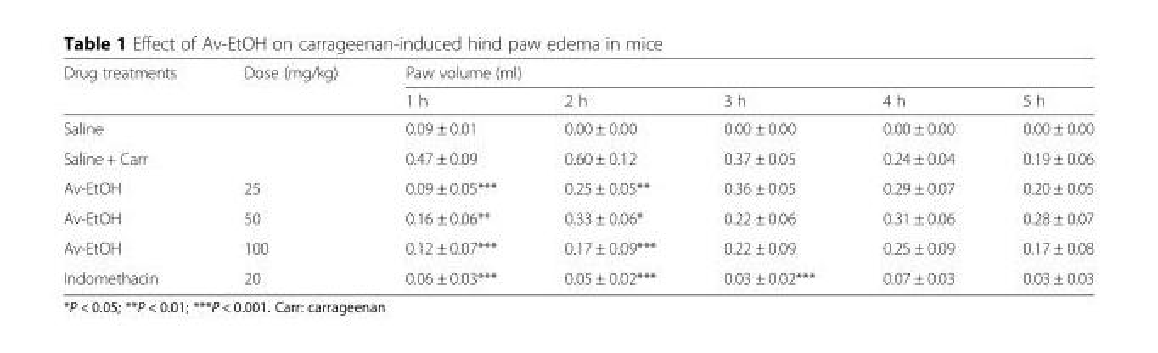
<table><thead><tr><td rowspan="2">Drug treatments</td><td rowspan="2">Dose (mg/kg)</td><td colspan="5">Paw volume (ml)</td></tr><tr><td>1 h</td><td>2 h</td><td>3 h</td><td>4 h</td><td>5 h</td></tr></thead><tbody><tr><td>Saline</td><td></td><td>0.09 ± 0.01</td><td>0.00 ± 0.00</td><td>0.00 ± 0.00</td><td>0.00 ± 0.00</td><td>0.00 ± 0.00</td></tr><tr><td>Saline + Carr</td><td></td><td>0.47 ± 0.09</td><td>0.60 ± 0.12</td><td>0.37 ± 0.05</td><td>0.24 ± 0.04</td><td>0.19 ± 0.06</td></tr><tr><td>Av-EtOH</td><td>25</td><td>0.09 ± 0.05***</td><td>0.25 ± 0.05**</td><td>0.36 ± 0.05</td><td>0.29 ± 0.07</td><td>0.20 ± 0.05</td></tr><tr><td>Av-EtOH</td><td>50</td><td>0.16 ± 0.06**</td><td>0.33 ± 0.06*</td><td>0.22 ± 0.06</td><td>0.31 ± 0.06</td><td>0.28 ± 0.07</td></tr><tr><td>Av-EtOH</td><td>100</td><td>0.12 ± 0.07***</td><td>0.17 ± 0.09***</td><td>0.22 ± 0.09</td><td>0.25 ± 0.09</td><td>0.17 ± 0.08</td></tr><tr><td>Indomethacin</td><td>20</td><td>0.06 ± 0.03***</td><td>0.05 ± 0.02***</td><td>0.03 ± 0.02***</td><td>0.07 ± 0.03</td><td>0.03 ± 0.03</td></tr></tbody></table>